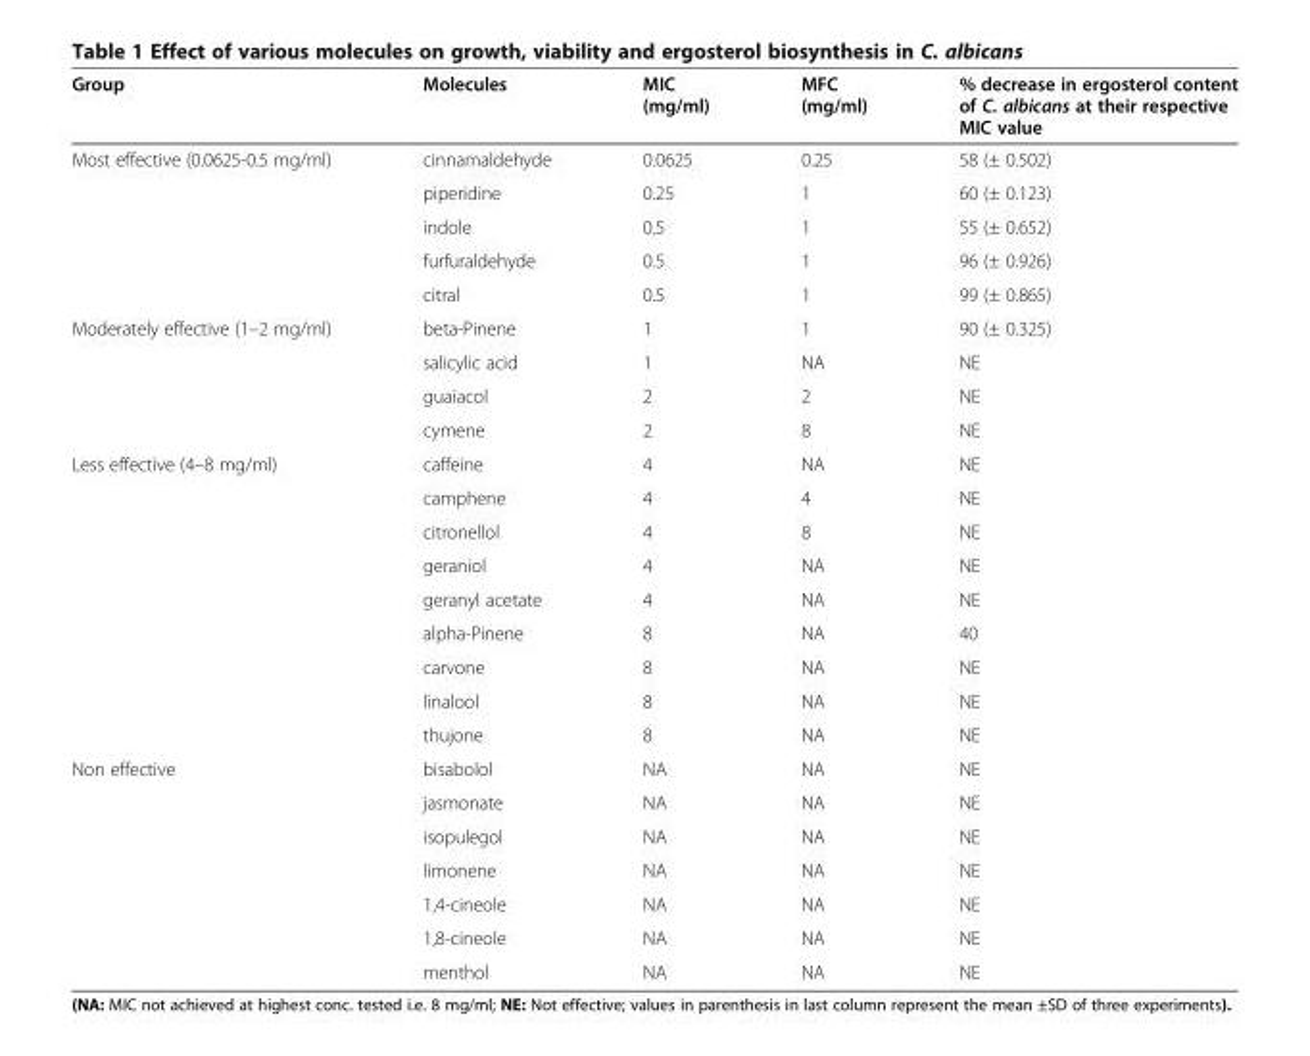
<table><thead><tr><td>Group</td><td>Molecules</td><td>MIC (mg/ml)</td><td>MFC (mg/ml)</td><td>% decrease in ergosterol content of C. albicans at their respective MIC value</td></tr></thead><tbody><tr><td rowspan="5">Most effective (0.0625-0.5 mg/ml)</td><td>cinnamaldehyde</td><td>0.0625</td><td>0.25</td><td>58 (± 0.502)</td></tr><tr><td>piperidine</td><td>0.25</td><td>1</td><td>60 (± 0.123)</td></tr><tr><td>indole</td><td>0.5</td><td>1</td><td>55 (± 0.652)</td></tr><tr><td>furfuraldehyde</td><td>0.5</td><td>1</td><td>96 (± 0.926)</td></tr><tr><td>citral</td><td>0.5</td><td>1</td><td>99 (± 0.865)</td></tr><tr><td rowspan="4">Moderately effective (1–2 mg/ml)</td><td>beta-Pinene</td><td>1</td><td>1</td><td>90 (± 0.325)</td></tr><tr><td>salicylic acid</td><td>1</td><td>NA</td><td>NE</td></tr><tr><td>guaiacol</td><td>2</td><td>2</td><td>NE</td></tr><tr><td>cymene</td><td>2</td><td>8</td><td>NE</td></tr><tr><td rowspan="9">Less effective (4–8 mg/ml)</td><td>caffeine</td><td>4</td><td>NA</td><td>NE</td></tr><tr><td>camphene</td><td>4</td><td>4</td><td>NE</td></tr><tr><td>citronellol</td><td>4</td><td>8</td><td>NE</td></tr><tr><td>geraniol</td><td>4</td><td>NA</td><td>NE</td></tr><tr><td>geranyl acetate</td><td>4</td><td>NA</td><td>NE</td></tr><tr><td>alpha-Pinene</td><td>8</td><td>NA</td><td>40</td></tr><tr><td>carvone</td><td>8</td><td>NA</td><td>NE</td></tr><tr><td>linalool</td><td>8</td><td>NA</td><td>NE</td></tr><tr><td>thujone</td><td>8</td><td>NA</td><td>NE</td></tr><tr><td rowspan="7">Non effective</td><td>bisabolol</td><td>NA</td><td>NA</td><td>NE</td></tr><tr><td>jasmonate</td><td>NA</td><td>NA</td><td>NE</td></tr><tr><td>isopulegol</td><td>NA</td><td>NA</td><td>NE</td></tr><tr><td>limonene</td><td>NA</td><td>NA</td><td>NE</td></tr><tr><td>1,4-cineole</td><td>NA</td><td>NA</td><td>NE</td></tr><tr><td>1,8-cineole</td><td>NA</td><td>NA</td><td>NE</td></tr><tr><td>menthol</td><td>NA</td><td>NA</td><td>NE</td></tr></tbody></table>